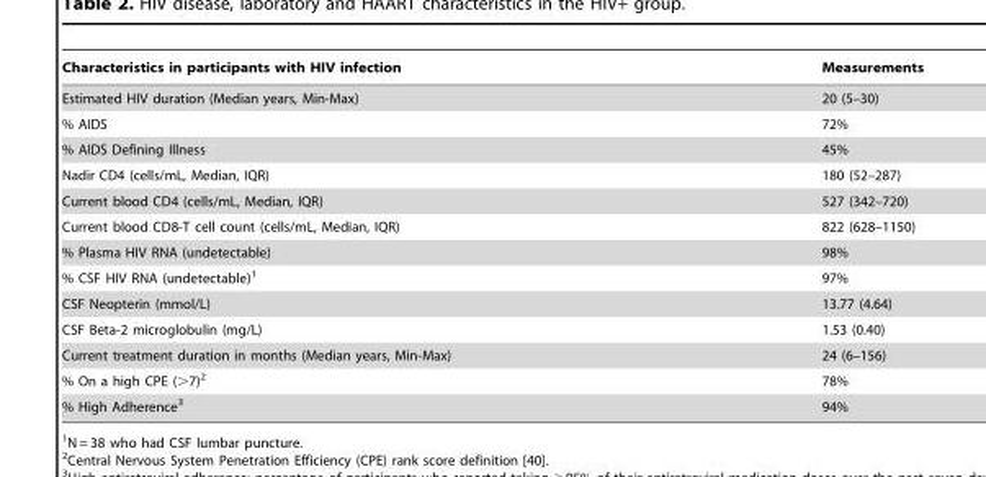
<table><thead><tr><td>Characteristics in participants with HIV infection</td><td>Measurements</td></tr></thead><tbody><tr><td>Estimated HIV duration (Median years, Min-Max)</td><td>20 (5–30)</td></tr><tr><td>% AIDS</td><td>72%</td></tr><tr><td>% AIDS Defining Illness</td><td>45%</td></tr><tr><td>Nadir CD4 (cells/mL, Median, IQR)</td><td>180 (52–287)</td></tr><tr><td>Current blood CD4 (cells/mL, Median, IQR)</td><td>527 (342–720)</td></tr><tr><td>Current blood CD8-T cell count (cells/mL, Median, IQR)</td><td>822 (628–1150)</td></tr><tr><td>% Plasma HIV RNA (undetectable)</td><td>98%</td></tr><tr><td>% CSF HIV RNA (undetectable)<sup>1</sup></td><td>97%</td></tr><tr><td>CSF Neopterin (mmol/L)</td><td>13.77 (4.64)</td></tr><tr><td>CSF Beta-2 microglobulin (mg/L)</td><td>1.53 (0.40)</td></tr><tr><td>Current treatment duration in months (Median years, Min-Max)</td><td>24 (6–156)</td></tr><tr><td>% On a high CPE (&gt;7)<sup>2</sup></td><td>78%</td></tr><tr><td>% High Adherence<sup>3</sup></td><td>94%</td></tr></tbody></table>